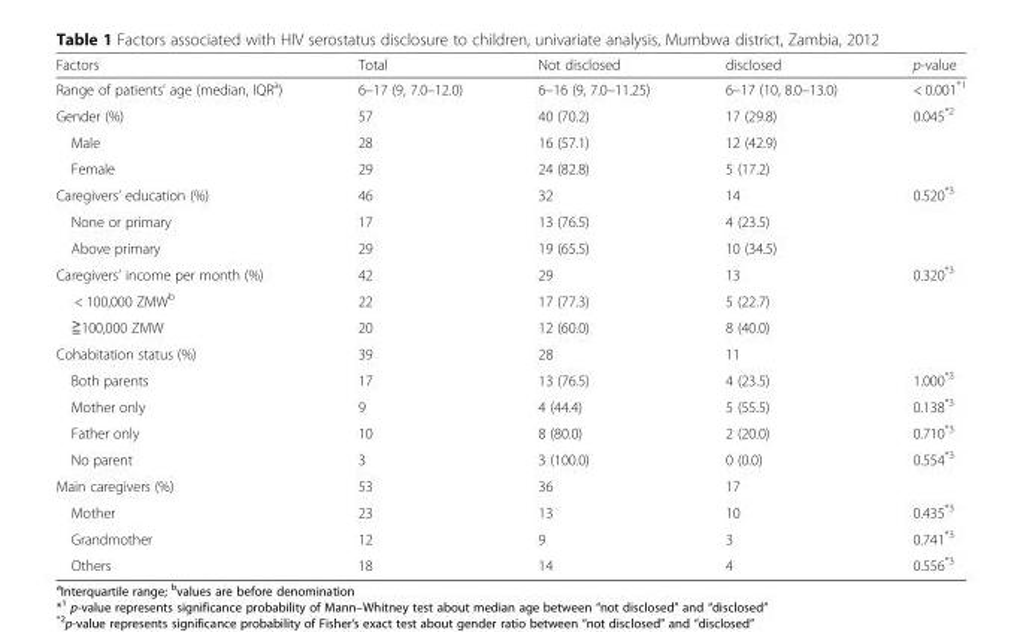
<table><thead><tr><td>Factors</td><td>Total</td><td>Not disclosed</td><td>disclosed</td><td>p-value</td></tr></thead><tbody><tr><td>Range of patients’ age (median, IQR<sup>a</sup>)</td><td>6–17 (9, 7.0–12.0)</td><td>6–16 (9, 7.0–11.25)</td><td>6–17 (10, 8.0–13.0)</td><td>&lt; 0.001<sup>*1</sup></td></tr><tr><td>Gender (%)</td><td>57</td><td>40 (70.2)</td><td>17 (29.8)</td><td>0.045<sup>*2</sup></td></tr><tr><td>Male</td><td>28</td><td>16 (57.1)</td><td>12 (42.9)</td><td></td></tr><tr><td>Female</td><td>29</td><td>24 (82.8)</td><td>5 (17.2)</td><td></td></tr><tr><td>Caregivers’ education (%)</td><td>46</td><td>32</td><td>14</td><td>0.520<sup>*3</sup></td></tr><tr><td>None or primary</td><td>17</td><td>13 (76.5)</td><td>4 (23.5)</td><td></td></tr><tr><td>Above primary</td><td>29</td><td>19 (65.5)</td><td>10 (34.5)</td><td></td></tr><tr><td>Caregivers’ income per month (%)</td><td>42</td><td>29</td><td>13</td><td>0.320<sup>*3</sup></td></tr><tr><td>&lt; 100,000 ZMW<sup>b</sup></td><td>22</td><td>17 (77.3)</td><td>5 (22.7)</td><td></td></tr><tr><td>≧100,000 ZMW</td><td>20</td><td>12 (60.0)</td><td>8 (40.0)</td><td></td></tr><tr><td>Cohabitation status (%)</td><td>39</td><td>28</td><td>11</td><td></td></tr><tr><td>Both parents</td><td>17</td><td>13 (76.5)</td><td>4 (23.5)</td><td>1.000<sup>*3</sup></td></tr><tr><td>Mother only</td><td>9</td><td>4 (44.4)</td><td>5 (55.5)</td><td>0.138<sup>*3</sup></td></tr><tr><td>Father only</td><td>10</td><td>8 (80.0)</td><td>2 (20.0)</td><td>0.710<sup>*3</sup></td></tr><tr><td>No parent</td><td>3</td><td>3 (100.0)</td><td>0 (0.0)</td><td>0.554<sup>*3</sup></td></tr><tr><td>Main caregivers (%)</td><td>53</td><td>36</td><td>17</td><td></td></tr><tr><td>Mother</td><td>23</td><td>13</td><td>10</td><td>0.435<sup>*3</sup></td></tr><tr><td>Grandmother</td><td>12</td><td>9</td><td>3</td><td>0.741<sup>*3</sup></td></tr><tr><td>Others</td><td>18</td><td>14</td><td>4</td><td>0.556<sup>*3</sup></td></tr></tbody></table>